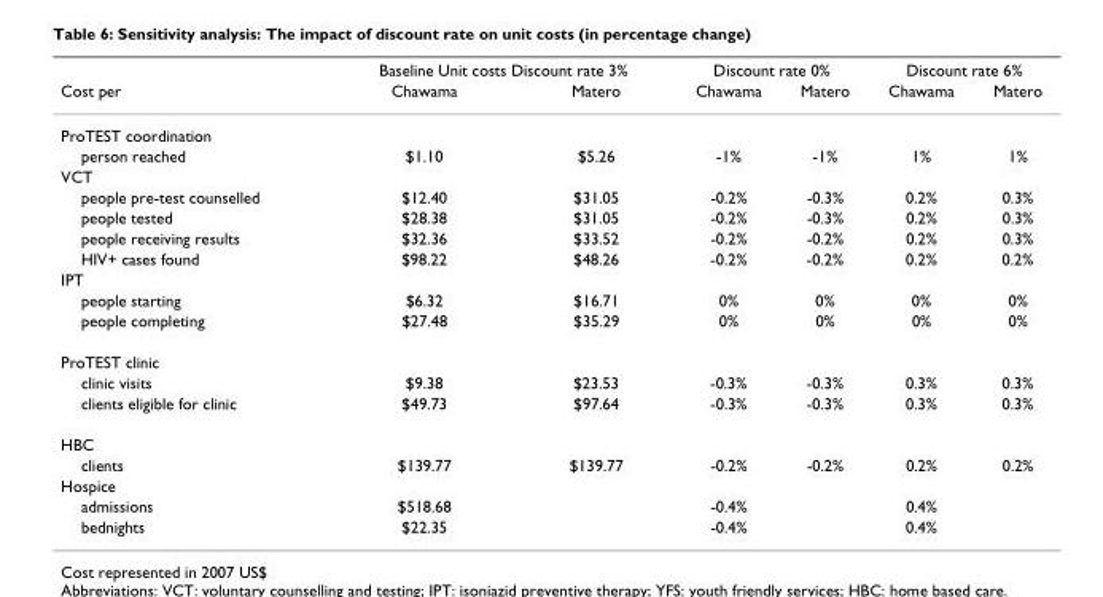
<table><thead><tr><td rowspan="2">Cost per</td><td colspan="2">Baseline Unit costs Discount rate 3%</td><td colspan="2">Discount rate 0%</td><td colspan="2">Discount rate 6%</td></tr><tr><td>Chawama</td><td>Matero</td><td>Chawama</td><td>Matero</td><td>Chawama</td><td>Matero</td></tr></thead><tbody><tr><td colspan="7">ProTEST coordination</td></tr><tr><td>person reached</td><td>$1.10</td><td>$5.26</td><td>-1%</td><td>-1%</td><td>1%</td><td>1%</td></tr><tr><td colspan="7">VCT</td></tr><tr><td>people pre-test counselled</td><td>$12.40</td><td>$31.05</td><td>-0.2%</td><td>-0.3%</td><td>0.2%</td><td>0.3%</td></tr><tr><td>people tested</td><td>$28.38</td><td>$31.05</td><td>-0.2%</td><td>-0.3%</td><td>0.2%</td><td>0.3%</td></tr><tr><td>people receiving results</td><td>$32.36</td><td>$33.52</td><td>-0.2%</td><td>-0.2%</td><td>0.2%</td><td>0.3%</td></tr><tr><td>HIV+ cases found</td><td>$98.22</td><td>$48.26</td><td>-0.2%</td><td>-0.2%</td><td>0.2%</td><td>0.2%</td></tr><tr><td colspan="7">IPT</td></tr><tr><td>people starting</td><td>$6.32</td><td>$16.71</td><td>0%</td><td>0%</td><td>0%</td><td>0%</td></tr><tr><td>people completing</td><td>$27.48</td><td>$35.29</td><td>0%</td><td>0%</td><td>0%</td><td>0%</td></tr><tr><td colspan="7">ProTEST clinic</td></tr><tr><td>clinic visits</td><td>$9.38</td><td>$23.53</td><td>-0.3%</td><td>-0.3%</td><td>0.3%</td><td>0.3%</td></tr><tr><td>clients eligible for clinic</td><td>$49.73</td><td>$97.64</td><td>-0.3%</td><td>-0.3%</td><td>0.3%</td><td>0.3%</td></tr><tr><td colspan="7">HBC</td></tr><tr><td>clients</td><td>$139.77</td><td>$139.77</td><td>-0.2%</td><td>-0.2%</td><td>0.2%</td><td>0.2%</td></tr><tr><td colspan="7">Hospice</td></tr><tr><td>admissions</td><td>$518.68</td><td></td><td>-0.4%</td><td></td><td>0.4%</td><td></td></tr><tr><td>bednights</td><td>$22.35</td><td></td><td>-0.4%</td><td></td><td>0.4%</td><td></td></tr></tbody></table>